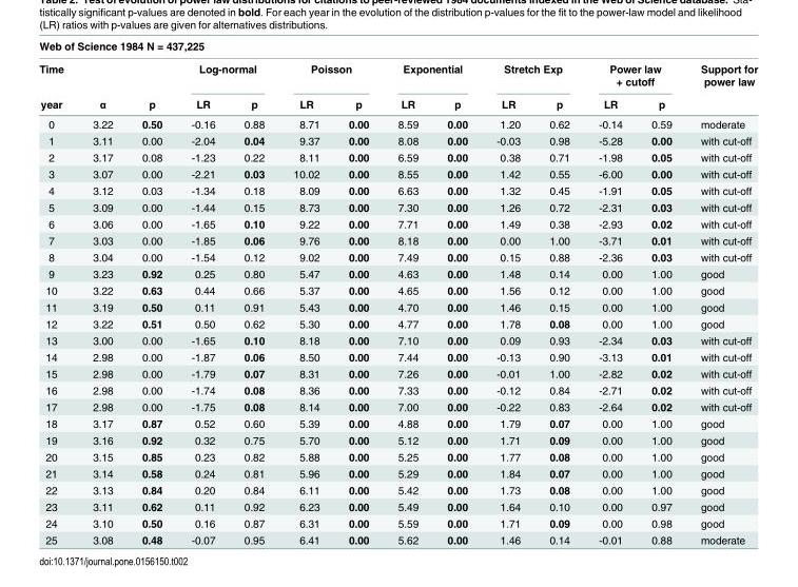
<table><thead><tr><td colspan="14">Web of Science 1984 N = 437,225</td></tr><tr><td rowspan="2">Time year</td><td rowspan="2">α</td><td rowspan="2">p</td><td colspan="2">Log-normal</td><td colspan="2">Poisson</td><td colspan="2">Exponential</td><td colspan="2">Stretch Exp</td><td colspan="2">Power law + cutoff</td><td rowspan="2">Support for power law</td></tr><tr><td>LR</td><td>p</td><td>LR</td><td>p</td><td>LR</td><td>p</td><td>LR</td><td>p</td><td>LR</td><td>p</td></tr></thead><tbody><tr><td>0</td><td>3.22</td><td>0.50</td><td>-0.16</td><td>0.88</td><td>8.71</td><td>0.00</td><td>8.59</td><td>0.00</td><td>1.20</td><td>0.62</td><td>-0.14</td><td>0.59</td><td>moderate</td></tr><tr><td>1</td><td>3.11</td><td>0.00</td><td>-2.04</td><td>0.04</td><td>9.37</td><td>0.00</td><td>8.08</td><td>0.00</td><td>-0.03</td><td>0.98</td><td>-5.28</td><td>0.00</td><td>with cut-off</td></tr><tr><td>2</td><td>3.17</td><td>0.08</td><td>-1.23</td><td>0.22</td><td>8.11</td><td>0.00</td><td>6.59</td><td>0.00</td><td>0.38</td><td>0.71</td><td>-1.98</td><td>0.05</td><td>with cut-off</td></tr><tr><td>3</td><td>3.07</td><td>0.00</td><td>-2.21</td><td>0.03</td><td>10.02</td><td>0.00</td><td>8.55</td><td>0.00</td><td>1.42</td><td>0.55</td><td>-6.00</td><td>0.00</td><td>with cut-off</td></tr><tr><td>4</td><td>3.12</td><td>0.03</td><td>-1.34</td><td>0.18</td><td>8.09</td><td>0.00</td><td>6.63</td><td>0.00</td><td>1.32</td><td>0.45</td><td>-1.91</td><td>0.05</td><td>with cut-off</td></tr><tr><td>5</td><td>3.09</td><td>0.00</td><td>-1.44</td><td>0.15</td><td>8.73</td><td>0.00</td><td>7.30</td><td>0.00</td><td>1.26</td><td>0.72</td><td>-2.31</td><td>0.03</td><td>with cut-off</td></tr><tr><td>6</td><td>3.06</td><td>0.00</td><td>-1.65</td><td>0.10</td><td>9.22</td><td>0.00</td><td>7.71</td><td>0.00</td><td>1.49</td><td>0.38</td><td>-2.93</td><td>0.02</td><td>with cut-off</td></tr><tr><td>7</td><td>3.03</td><td>0.00</td><td>-1.85</td><td>0.06</td><td>9.76</td><td>0.00</td><td>8.18</td><td>0.00</td><td>0.00</td><td>1.00</td><td>-3.71</td><td>0.01</td><td>with cut-off</td></tr><tr><td>8</td><td>3.04</td><td>0.00</td><td>-1.54</td><td>0.12</td><td>9.02</td><td>0.00</td><td>7.49</td><td>0.00</td><td>0.15</td><td>0.88</td><td>-2.36</td><td>0.03</td><td>with cut-off</td></tr><tr><td>9</td><td>3.23</td><td>0.92</td><td>0.25</td><td>0.80</td><td>5.47</td><td>0.00</td><td>4.63</td><td>0.00</td><td>1.48</td><td>0.14</td><td>0.00</td><td>1.00</td><td>good</td></tr><tr><td>10</td><td>3.22</td><td>0.63</td><td>0.44</td><td>0.66</td><td>5.37</td><td>0.00</td><td>4.65</td><td>0.00</td><td>1.56</td><td>0.12</td><td>0.00</td><td>1.00</td><td>good</td></tr><tr><td>11</td><td>3.19</td><td>0.50</td><td>0.11</td><td>0.91</td><td>5.43</td><td>0.00</td><td>4.70</td><td>0.00</td><td>1.46</td><td>0.15</td><td>0.00</td><td>1.00</td><td>good</td></tr><tr><td>12</td><td>3.22</td><td>0.51</td><td>0.50</td><td>0.62</td><td>5.30</td><td>0.00</td><td>4.77</td><td>0.00</td><td>1.78</td><td>0.08</td><td>0.00</td><td>1.00</td><td>good</td></tr><tr><td>13</td><td>3.00</td><td>0.00</td><td>-1.65</td><td>0.10</td><td>8.18</td><td>0.00</td><td>7.10</td><td>0.00</td><td>0.09</td><td>0.93</td><td>-2.34</td><td>0.03</td><td>with cut-off</td></tr><tr><td>14</td><td>2.98</td><td>0.00</td><td>-1.87</td><td>0.06</td><td>8.50</td><td>0.00</td><td>7.44</td><td>0.00</td><td>-0.13</td><td>0.90</td><td>-3.13</td><td>0.01</td><td>with cut-off</td></tr><tr><td>15</td><td>2.98</td><td>0.00</td><td>-1.79</td><td>0.07</td><td>8.31</td><td>0.00</td><td>7.26</td><td>0.00</td><td>-0.01</td><td>1.00</td><td>-2.82</td><td>0.02</td><td>with cut-off</td></tr><tr><td>16</td><td>2.98</td><td>0.00</td><td>-1.74</td><td>0.08</td><td>8.36</td><td>0.00</td><td>7.33</td><td>0.00</td><td>-0.12</td><td>0.84</td><td>-2.71</td><td>0.02</td><td>with cut-off</td></tr><tr><td>17</td><td>2.98</td><td>0.00</td><td>-1.75</td><td>0.08</td><td>8.14</td><td>0.00</td><td>7.00</td><td>0.00</td><td>-0.22</td><td>0.83</td><td>-2.64</td><td>0.02</td><td>with cut-off</td></tr><tr><td>18</td><td>3.17</td><td>0.87</td><td>0.52</td><td>0.60</td><td>5.39</td><td>0.00</td><td>4.88</td><td>0.00</td><td>1.79</td><td>0.07</td><td>0.00</td><td>1.00</td><td>good</td></tr><tr><td>19</td><td>3.16</td><td>0.92</td><td>0.32</td><td>0.75</td><td>5.70</td><td>0.00</td><td>5.12</td><td>0.00</td><td>1.71</td><td>0.09</td><td>0.00</td><td>1.00</td><td>good</td></tr><tr><td>20</td><td>3.15</td><td>0.85</td><td>0.23</td><td>0.82</td><td>5.88</td><td>0.00</td><td>5.25</td><td>0.00</td><td>1.77</td><td>0.08</td><td>0.00</td><td>1.00</td><td>good</td></tr><tr><td>21</td><td>3.14</td><td>0.58</td><td>0.24</td><td>0.81</td><td>5.96</td><td>0.00</td><td>5.29</td><td>0.00</td><td>1.84</td><td>0.07</td><td>0.00</td><td>1.00</td><td>good</td></tr><tr><td>22</td><td>3.13</td><td>0.84</td><td>0.20</td><td>0.84</td><td>6.11</td><td>0.00</td><td>5.42</td><td>0.00</td><td>1.73</td><td>0.08</td><td>0.00</td><td>1.00</td><td>good</td></tr><tr><td>23</td><td>3.11</td><td>0.62</td><td>0.11</td><td>0.92</td><td>6.23</td><td>0.00</td><td>5.49</td><td>0.00</td><td>1.64</td><td>0.10</td><td>0.00</td><td>0.97</td><td>good</td></tr><tr><td>24</td><td>3.10</td><td>0.50</td><td>0.16</td><td>0.87</td><td>6.31</td><td>0.00</td><td>5.59</td><td>0.00</td><td>1.71</td><td>0.09</td><td>0.00</td><td>0.98</td><td>good</td></tr><tr><td>25</td><td>3.08</td><td>0.48</td><td>-0.07</td><td>0.95</td><td>6.41</td><td>0.00</td><td>5.62</td><td>0.00</td><td>1.46</td><td>0.14</td><td>-0.01</td><td>0.88</td><td>moderate</td></tr></tbody></table>